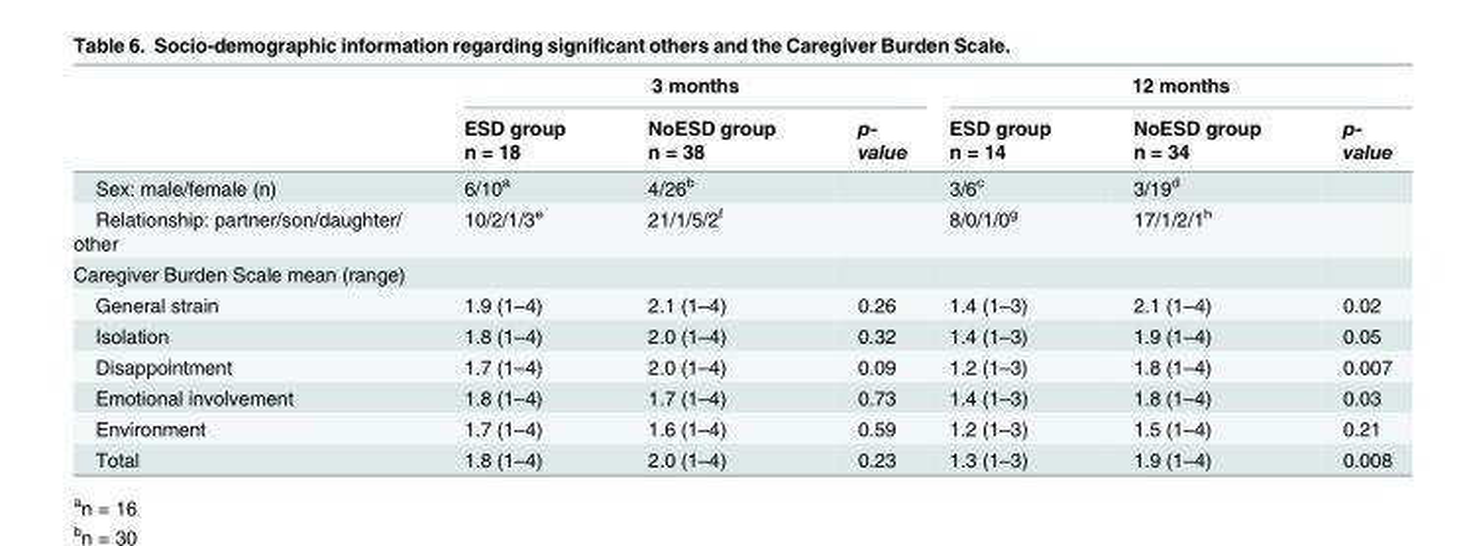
<table><thead><tr><td rowspan="2"></td><td colspan="3">3 months</td><td colspan="3">12 months</td></tr><tr><td>ESD group n = 18</td><td>NoESD group n = 38</td><td>p- value</td><td>ESD group n = 14</td><td>NoESD group n = 34</td><td>p- value</td></tr></thead><tbody><tr><td>Sex: male/female (n)</td><td>6/10<sup>a</sup></td><td>4/26<sup>b</sup></td><td></td><td>3/6<sup>c</sup></td><td>3/19<sup>d</sup></td><td></td></tr><tr><td>Relationship: partner/son/daughter/ other</td><td>10/2/1/3<sup>e</sup></td><td>21/1/5/2<sup>f</sup></td><td></td><td>8/0/1/0<sup>g</sup></td><td>17/1/2/1<sup>h</sup></td><td></td></tr><tr><td colspan="7">Caregiver Burden Scale mean (range)</td></tr><tr><td>General strain</td><td>1.9 (1–4)</td><td>2.1 (1–4)</td><td>0.26</td><td>1.4 (1–3)</td><td>2.1 (1–4)</td><td>0.02</td></tr><tr><td>Isolation</td><td>1.8 (1–4)</td><td>2.0 (1–4)</td><td>0.32</td><td>1.4 (1–3)</td><td>1.9 (1–4)</td><td>0.05</td></tr><tr><td>Disappointment</td><td>1.7 (1–4)</td><td>2.0 (1–4)</td><td>0.09</td><td>1.2 (1–3)</td><td>1.8 (1–4)</td><td>0.007</td></tr><tr><td>Emotional involvement</td><td>1.8 (1–4)</td><td>1.7 (1–4)</td><td>0.73</td><td>1.4 (1–3)</td><td>1.8 (1–4)</td><td>0.03</td></tr><tr><td>Environment</td><td>1.7 (1–4)</td><td>1.6 (1–4)</td><td>0.59</td><td>1.2 (1–3)</td><td>1.5 (1–4)</td><td>0.21</td></tr><tr><td>Total</td><td>1.8 (1–4)</td><td>2.0 (1–4)</td><td>0.23</td><td>1.3 (1–3)</td><td>1.9 (1–4)</td><td>0.008</td></tr></tbody></table>